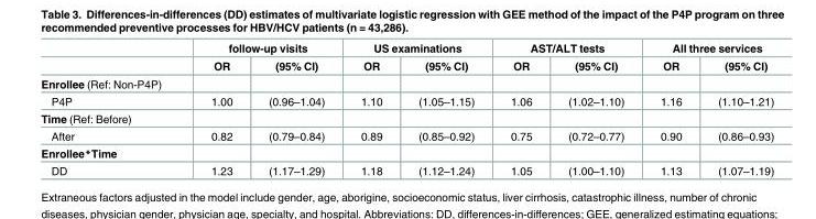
<table><thead><tr><td rowspan="2"></td><td colspan="2">follow-up visits</td><td colspan="2">US examinations</td><td colspan="2">AST/ALT tests</td><td colspan="2">All three services</td></tr><tr><td>OR</td><td>(95% CI)</td><td>OR</td><td>(95% CI)</td><td>OR</td><td>(95% CI)</td><td>OR</td><td>(95% CI)</td></tr></thead><tbody><tr><td colspan="9">Enrollee (Ref: Non-P4P)</td></tr><tr><td>P4P</td><td>1.00</td><td>(0.96–1.04)</td><td>1.10</td><td>(1.05–1.15)</td><td>1.06</td><td>(1.02–1.10)</td><td>1.16</td><td>(1.10–1.21)</td></tr><tr><td colspan="9">Time (Ref: Before)</td></tr><tr><td>After</td><td>0.82</td><td>(0.79–0.84)</td><td>0.89</td><td>(0.85–0.92)</td><td>0.75</td><td>(0.72–0.77)</td><td>0.90</td><td>(0.86–0.93)</td></tr><tr><td colspan="9">Enrollee*Time</td></tr><tr><td>DD</td><td>1.23</td><td>(1.17–1.29)</td><td>1.18</td><td>(1.12–1.24)</td><td>1.05</td><td>(1.00–1.10)</td><td>1.13</td><td>(1.07–1.19)</td></tr></tbody></table>